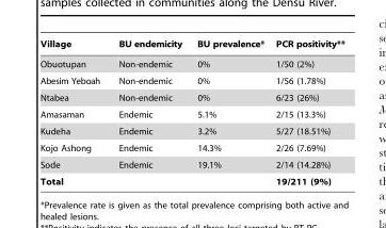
<table><thead><tr><td>Village</td><td>BU endemicity</td><td>BU prevalence*</td><td>PCR positivity**</td></tr></thead><tbody><tr><td>Obuotupan</td><td>Non-endemic</td><td>0%</td><td>1/50 (2%)</td></tr><tr><td>Abesim Yeboah</td><td>Non-endemic</td><td>0%</td><td>1/56 (1.78%)</td></tr><tr><td>Ntabea</td><td>Non-endemic</td><td>0%</td><td>6/23 (26%)</td></tr><tr><td>Amasaman</td><td>Endemic</td><td>5.1%</td><td>2/15 (13.3%)</td></tr><tr><td>Kudeha</td><td>Endemic</td><td>3.2%</td><td>5/27 (18.51%)</td></tr><tr><td>Kojo Ashong</td><td>Endemic</td><td>14.3%</td><td>2/26 (7.69%)</td></tr><tr><td>Sode</td><td>Endemic</td><td>19.1%</td><td>2/14 (14.28%)</td></tr><tr><td>Total</td><td></td><td></td><td>19/211 (9%)</td></tr></tbody></table>